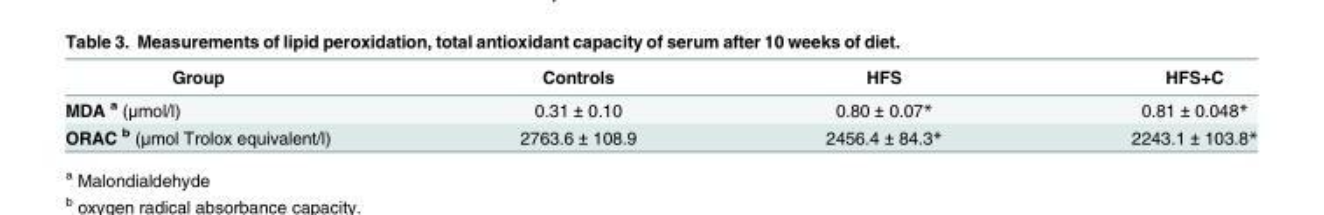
<table><thead><tr><td>Group</td><td>Controls</td><td>HFS</td><td>HFS+C</td></tr></thead><tbody><tr><td>MDA <sup>a</sup> (μmol/l)</td><td>0.31 ± 0.10</td><td>0.80 ± 0.07*</td><td>0.81 ± 0.048*</td></tr><tr><td>ORAC <sup>b</sup> (μmol Trolox equivalent/l)</td><td>2763.6 ± 108.9</td><td>2456.4 ± 84.3*</td><td>2243.1 ± 103.8*</td></tr></tbody></table>